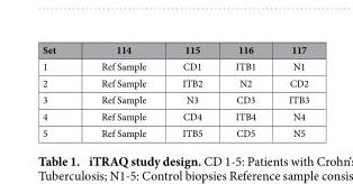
<table><thead><tr><td>Set</td><td>114</td><td>115</td><td>116</td><td>117</td></tr></thead><tbody><tr><td>1</td><td>Ref Sample</td><td>CD1</td><td>ITB1</td><td>N1</td></tr><tr><td>2</td><td>Ref Sample</td><td>ITB2</td><td>N2</td><td>CD2</td></tr><tr><td>3</td><td>Ref Sample</td><td>N3</td><td>CD3</td><td>ITB3</td></tr><tr><td>4</td><td>Ref Sample</td><td>CD4</td><td>ITB4</td><td>N4</td></tr><tr><td>5</td><td>Ref Sample</td><td>ITB5</td><td>CD5</td><td>N5</td></tr></tbody></table>